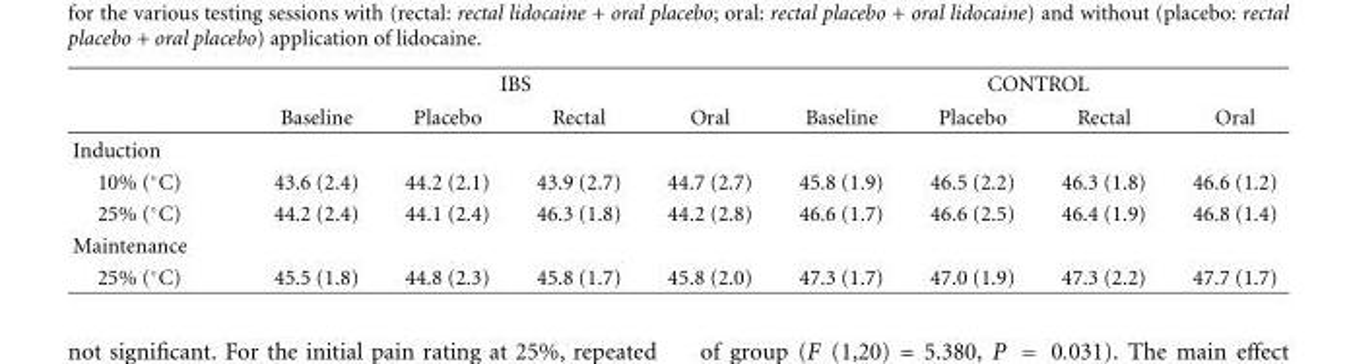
<table><thead><tr><td rowspan="2"></td><td colspan="4">IBS</td><td colspan="4">CONTROL</td></tr><tr><td>Baseline</td><td>Placebo</td><td>Rectal</td><td>Oral</td><td>Baseline</td><td>Placebo</td><td>Rectal</td><td>Oral</td></tr></thead><tbody><tr><td colspan="9">Induction</td></tr><tr><td>10% (◦C)</td><td>43.6 (2.4)</td><td>44.2 (2.1)</td><td>43.9 (2.7)</td><td>44.7 (2.7)</td><td>45.8 (1.9)</td><td>46.5 (2.2)</td><td>46.3 (1.8)</td><td>46.6 (1.2)</td></tr><tr><td>25% (◦C)</td><td>44.2 (2.4)</td><td>44.1 (2.4)</td><td>46.3 (1.8)</td><td>44.2 (2.8)</td><td>46.6 (1.7)</td><td>46.6 (2.5)</td><td>46.4 (1.9)</td><td>46.8 (1.4)</td></tr><tr><td colspan="9">Maintenance</td></tr><tr><td>25% (◦C)</td><td>45.5 (1.8)</td><td>44.8 (2.3)</td><td>45.8 (1.7)</td><td>45.8 (2.0)</td><td>47.3 (1.7)</td><td>47.0 (1.9)</td><td>47.3 (2.2)</td><td>47.7 (1.7)</td></tr></tbody></table>